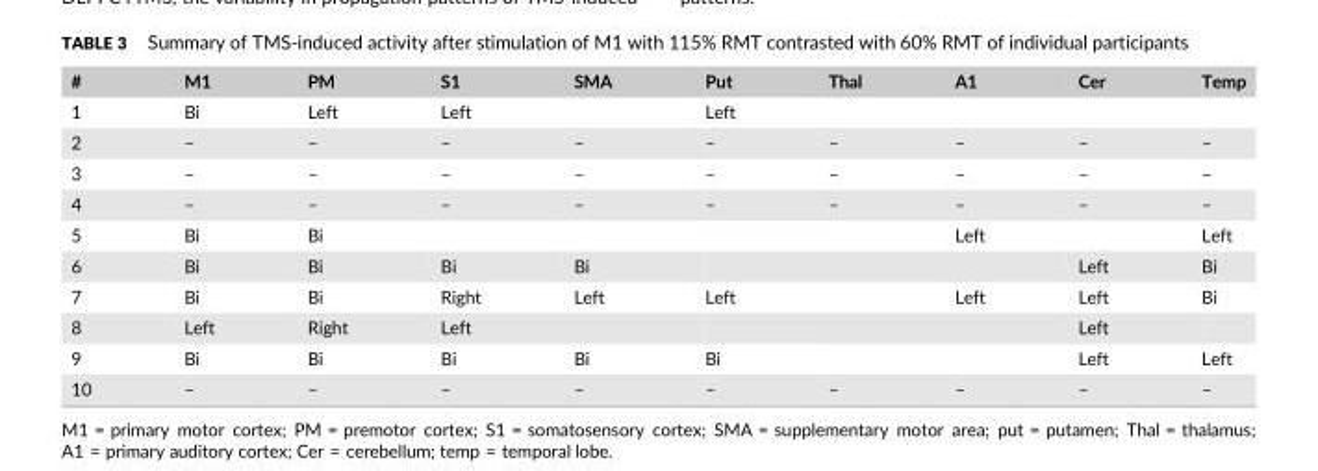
<table><thead><tr><td>#</td><td>M1</td><td>PM</td><td>S1</td><td>SMA</td><td>Put</td><td>Thal</td><td>A1</td><td>Cer</td><td>Temp</td></tr></thead><tbody><tr><td>1</td><td>Bi</td><td>Left</td><td>Left</td><td></td><td>Left</td><td></td><td></td><td></td><td></td></tr><tr><td>2</td><td>–</td><td>–</td><td>–</td><td>–</td><td>–</td><td>–</td><td>–</td><td>–</td><td>–</td></tr><tr><td>3</td><td>–</td><td>–</td><td>–</td><td>–</td><td>–</td><td>–</td><td>–</td><td>–</td><td>–</td></tr><tr><td>4</td><td>–</td><td>–</td><td>–</td><td>–</td><td>–</td><td>–</td><td>–</td><td>–</td><td>–</td></tr><tr><td>5</td><td>Bi</td><td>Bi</td><td></td><td></td><td></td><td></td><td>Left</td><td></td><td>Left</td></tr><tr><td>6</td><td>Bi</td><td>Bi</td><td>Bi</td><td>Bi</td><td></td><td></td><td></td><td>Left</td><td>Bi</td></tr><tr><td>7</td><td>Bi</td><td>Bi</td><td>Right</td><td>Left</td><td>Left</td><td></td><td>Left</td><td>Left</td><td>Bi</td></tr><tr><td>8</td><td>Left</td><td>Right</td><td>Left</td><td></td><td></td><td></td><td></td><td>Left</td><td></td></tr><tr><td>9</td><td>Bi</td><td>Bi</td><td>Bi</td><td>Bi</td><td>Bi</td><td></td><td></td><td>Left</td><td>Left</td></tr><tr><td>10</td><td>–</td><td>–</td><td>–</td><td>–</td><td>–</td><td>–</td><td>–</td><td>–</td><td>–</td></tr></tbody></table>